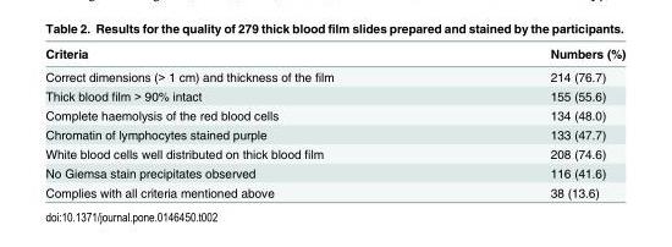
<table><thead><tr><td>Criteria</td><td>Numbers (%)</td></tr></thead><tbody><tr><td>Correct dimensions (&gt; 1 cm) and thickness of the film</td><td>214 (76.7)</td></tr><tr><td>Thick blood film &gt; 90% intact</td><td>155 (55.6)</td></tr><tr><td>Complete haemolysis of the red blood cells</td><td>134 (48.0)</td></tr><tr><td>Chromatin of lymphocytes stained purple</td><td>133 (47.7)</td></tr><tr><td>White blood cells well distributed on thick blood film</td><td>208 (74.6)</td></tr><tr><td>No Giemsa stain precipitates observed</td><td>116 (41.6)</td></tr><tr><td>Complies with all criteria mentioned above</td><td>38 (13.6)</td></tr></tbody></table>